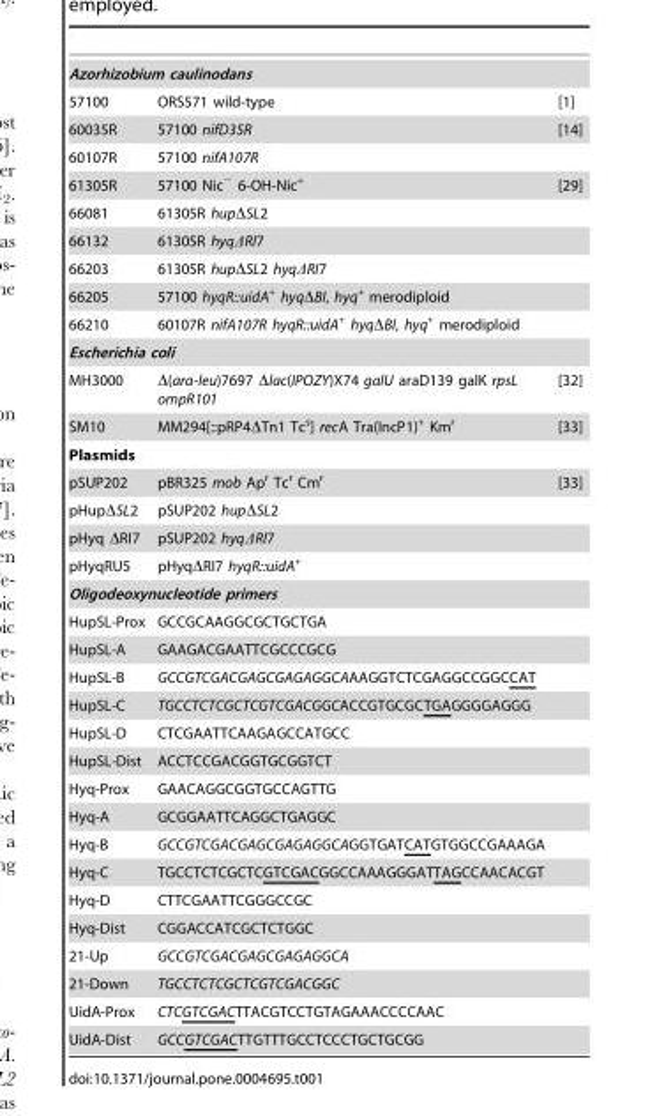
<table><tbody><tr><td colspan="3">Azorhizobium caulinodans</td></tr><tr><td>57100</td><td>ORS571 wild-type</td><td>[1]</td></tr><tr><td>60035R</td><td>57100 nifD35R</td><td>[14]</td></tr><tr><td>60107R</td><td>57100 nifA107R</td><td></td></tr><tr><td>61305R</td><td>57100 Nic<sup>−</sup> 6-OH-Nic<sup>+</sup></td><td>[29]</td></tr><tr><td>66081</td><td>61305R hupΔSL2</td><td></td></tr><tr><td>66132</td><td>61305R hyqΔRI7</td><td></td></tr><tr><td>66203</td><td>61305R hupΔSL2 hyqΔRI7</td><td></td></tr><tr><td>66205</td><td>57100 hyqR::uidA<sup>+</sup> hyqΔBI, hyq<sup>+</sup> merodiploid</td><td></td></tr><tr><td>66210</td><td>60107R nifA107R hyqR::uidA<sup>+</sup> hyqΔBI, hyq<sup>+</sup> merodiploid</td><td></td></tr><tr><td colspan="3">Escherichia coli</td></tr><tr><td>MH3000</td><td>Δ(ara-leu)7697 Δlac(IPOZY)X74 galU araD139 galK rpsL ompR101</td><td>[32]</td></tr><tr><td>SM10</td><td>MM294[::pRP4ΔTn1 Tc<sup>s</sup>] recA Tra(IncP1)<sup>+</sup> Km<sup>r</sup></td><td>[33]</td></tr><tr><td colspan="3">Plasmids</td></tr><tr><td>pSUP202</td><td>pBR325 mob Ap<sup>r</sup> Tc<sup>r</sup> Cm<sup>r</sup></td><td>[33]</td></tr><tr><td>pHupΔSL2</td><td>pSUP202 hupΔSL2</td><td></td></tr><tr><td>pHyq ΔRI7</td><td>pSUP202 hyqΔRI7</td><td></td></tr><tr><td>pHyqRU5</td><td>pHyqΔRI7 hyqR::uidA<sup>+</sup></td><td></td></tr><tr><td colspan="3">Oligodeoxynucleotide primers</td></tr><tr><td>HupSL-Prox</td><td>GCCGCAAGGCGCTGCTGA</td><td></td></tr><tr><td>HupSL-A</td><td>GAAGACGAATTCGCCCGCG</td><td></td></tr><tr><td>HupSL-B</td><td>GCCGTCGACGAGCGAGAGGCAAAGGTCTCGAGGCCGGCCAT</td><td></td></tr><tr><td>HupSL-C</td><td>TGCCTCTCGCTCGTCGACGGCACCGTGCGCTGAGGGGAGGG</td><td></td></tr><tr><td>HupSL-D</td><td>CTCGAATTCAAGAGCCATGCC</td><td></td></tr><tr><td>HupSL-Dist</td><td>ACCTCCGACGGTGCGGTCT</td><td></td></tr><tr><td>Hyq-Prox</td><td>GAACAGGCGGTGCCAGTTG</td><td></td></tr><tr><td>Hyq-A</td><td>GCGGAATTCAGGCTGAGGC</td><td></td></tr><tr><td>Hyq-B</td><td>GCCGTCGACGAGCGAGAGGCAGGTGATCATGTGGCCGAAAGA</td><td></td></tr><tr><td>Hyq-C</td><td>TGCCTCTCGCTCGTCGACGGCCAAAGGGATTAGCCAACACGT</td><td></td></tr><tr><td>Hyq-D</td><td>CTTCGAATTCGGGCCGC</td><td></td></tr><tr><td>Hyq-Dist</td><td>CGGACCATCGCTCTGGC</td><td></td></tr><tr><td>21-Up</td><td>GCCGTCGACGAGCGAGAGGCA</td><td></td></tr><tr><td>21-Down</td><td>TGCCTCTCGCTCGTCGACGGC</td><td></td></tr><tr><td>UidA-Prox</td><td>CTCGTCGACTTACGTCCTGTAGAAACCCCAAC</td><td></td></tr><tr><td>UidA-Dist</td><td>GCCGTCGACTTGTTTGCCTCCCTGCTGCGG</td><td></td></tr></tbody></table>